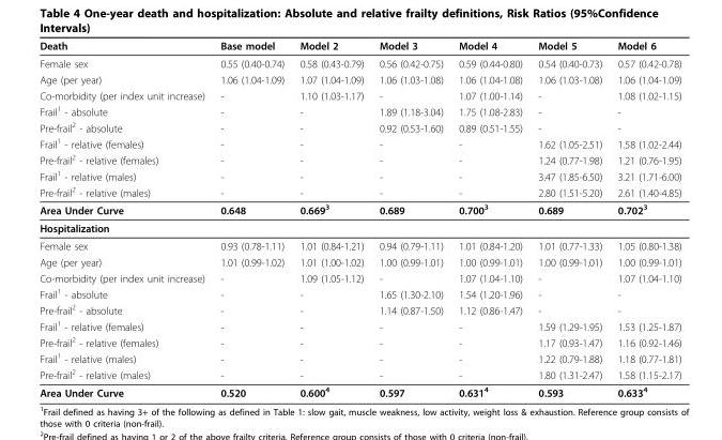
<table><thead><tr><td>Death</td><td>Base model</td><td>Model 2</td><td>Model 3</td><td>Model 4</td><td>Model 5</td><td>Model 6</td></tr></thead><tbody><tr><td>Female sex</td><td>0.55 (0.40-0.74)</td><td>0.58 (0.43-0.79)</td><td>0.56 (0.42-0.75)</td><td>0.59 (0.44-0.80)</td><td>0.54 (0.40-0.73)</td><td>0.57 (0.42-0.78)</td></tr><tr><td>Age (per year)</td><td>1.06 (1.04-1.09)</td><td>1.07 (1.04-1.09)</td><td>1.06 (1.03-1.08)</td><td>1.06 (1.04-1.08)</td><td>1.06 (1.03-1.08)</td><td>1.06 (1.04-1.09)</td></tr><tr><td>Co-morbidity (per index unit increase)</td><td>-</td><td>1.10 (1.03-1.17)</td><td>-</td><td>1.07 (1.00-1.14)</td><td>-</td><td>1.08 (1.02-1.15)</td></tr><tr><td>Frail<sup>1</sup> - absolute</td><td>-</td><td>-</td><td>1.89 (1.18-3.04)</td><td>1.75 (1.08-2.83)</td><td>-</td><td>-</td></tr><tr><td>Pre-frail<sup>2</sup> - absolute</td><td>-</td><td>-</td><td>0.92 (0.53-1.60)</td><td>0.89 (0.51-1.55)</td><td>-</td><td>-</td></tr><tr><td>Frail<sup>1</sup> - relative (females)</td><td>-</td><td>-</td><td>-</td><td>-</td><td>1.62 (1.05-2.51)</td><td>1.58 (1.02-2.44)</td></tr><tr><td>Pre-frail<sup>2</sup> - relative (females)</td><td>-</td><td>-</td><td>-</td><td>-</td><td>1.24 (0.77-1.98)</td><td>1.21 (0.76-1.95)</td></tr><tr><td>Frail<sup>1</sup> - relative (males)</td><td>-</td><td>-</td><td>-</td><td>-</td><td>3.47 (1.85-6.50)</td><td>3.21 (1.71-6.00)</td></tr><tr><td>Pre-frail<sup>2</sup> - relative (males)</td><td>-</td><td>-</td><td>-</td><td>-</td><td>2.80 (1.51-5.20)</td><td>2.61 (1.40-4.85)</td></tr><tr><td>Area Under Curve</td><td>0.648</td><td>0.669<sup>3</sup></td><td>0.689</td><td>0.700<sup>3</sup></td><td>0.689</td><td>0.702<sup>3</sup></td></tr><tr><td colspan="7">Hospitalization</td></tr><tr><td>Female sex</td><td>0.93 (0.78-1.11)</td><td>1.01 (0.84-1.21)</td><td>0.94 (0.79-1.11)</td><td>1.01 (0.84-1.20)</td><td>1.01 (0.77-1.33)</td><td>1.05 (0.80-1.38)</td></tr><tr><td>Age (per year)</td><td>1.01 (0.99-1.02)</td><td>1.01 (1.00-1.02)</td><td>1.00 (0.99-1.01)</td><td>1.00 (0.99-1.01)</td><td>1.00 (0.99-1.01)</td><td>1.00 (0.99-1.01)</td></tr><tr><td>Co-morbidity (per index unit increase)</td><td>-</td><td>1.09 (1.05-1.12)</td><td>-</td><td>1.07 (1.04-1.10)</td><td>-</td><td>1.07 (1.04-1.10)</td></tr><tr><td>Frail<sup>1</sup> - absolute</td><td>-</td><td>-</td><td>1.65 (1.30-2.10)</td><td>1.54 (1.20-1.96)</td><td>-</td><td>-</td></tr><tr><td>Pre-frail<sup>2</sup> - absolute</td><td>-</td><td>-</td><td>1.14 (0.87-1.50)</td><td>1.12 (0.86-1.47)</td><td>-</td><td>-</td></tr><tr><td>Frail<sup>1</sup> - relative (females)</td><td>-</td><td>-</td><td>-</td><td>-</td><td>1.59 (1.29-1.95)</td><td>1.53 (1.25-1.87)</td></tr><tr><td>Pre-frail<sup>2</sup> - relative (females)</td><td>-</td><td>-</td><td>-</td><td>-</td><td>1.17 (0.93-1.47)</td><td>1.16 (0.92-1.46)</td></tr><tr><td>Frail<sup>1</sup> - relative (males)</td><td>-</td><td>-</td><td>-</td><td>-</td><td>1.22 (0.79-1.88)</td><td>1.18 (0.77-1.81)</td></tr><tr><td>Pre-frail<sup>2</sup> - relative (males)</td><td>-</td><td>-</td><td>-</td><td>-</td><td>1.80 (1.31-2.47)</td><td>1.58 (1.15-2.17)</td></tr><tr><td>Area Under Curve</td><td>0.520</td><td>0.600<sup>4</sup></td><td>0.597</td><td>0.631<sup>4</sup></td><td>0.593</td><td>0.633<sup>4</sup></td></tr></tbody></table>